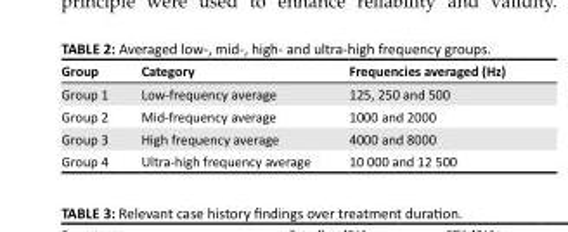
<table><thead><tr><td>Group</td><td>Category</td><td>Frequencies averaged (Hz)</td></tr></thead><tbody><tr><td>Group 1</td><td>Low-frequency average</td><td>125, 250 and 500</td></tr><tr><td>Group 2</td><td>Mid-frequency average</td><td>1000 and 2000</td></tr><tr><td>Group 3</td><td>High frequency average</td><td>4000 and 8000</td></tr><tr><td>Group 4</td><td>Ultra-high frequency average</td><td>10 000 and 12 500</td></tr></tbody></table>